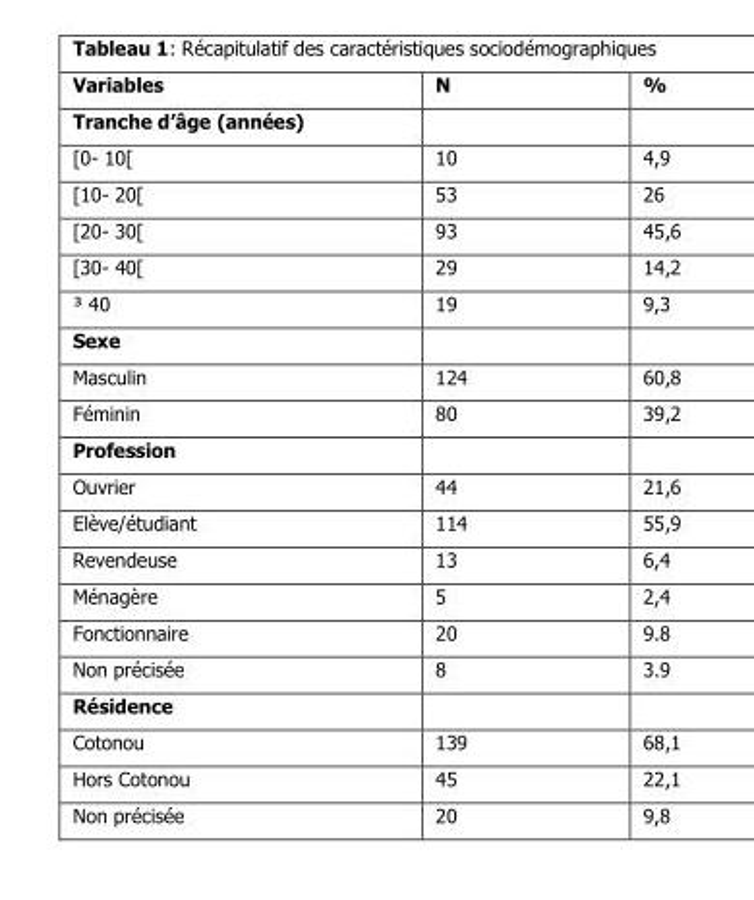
<table><thead><tr><td>Variables</td><td>N</td><td>%</td></tr></thead><tbody><tr><td colspan="3">Tranche d’âge (années)</td></tr><tr><td>[0- 10[</td><td>10</td><td>4,9</td></tr><tr><td>[10- 20[</td><td>53</td><td>26</td></tr><tr><td>[20- 30[</td><td>93</td><td>45,6</td></tr><tr><td>[30- 40[</td><td>29</td><td>14,2</td></tr><tr><td>³ 40</td><td>19</td><td>9,3</td></tr><tr><td colspan="3">Sexe</td></tr><tr><td>Masculin</td><td>124</td><td>60,8</td></tr><tr><td>Féminin</td><td>80</td><td>39,2</td></tr><tr><td colspan="3">Profession</td></tr><tr><td>Ouvrier</td><td>44</td><td>21,6</td></tr><tr><td>Elève/étudiant</td><td>114</td><td>55,9</td></tr><tr><td>Revendeuse</td><td>13</td><td>6,4</td></tr><tr><td>Ménagère</td><td>5</td><td>2,4</td></tr><tr><td>Fonctionnaire</td><td>20</td><td>9.8</td></tr><tr><td>Non précisée</td><td>8</td><td>3.9</td></tr><tr><td colspan="3">Résidence</td></tr><tr><td>Cotonou</td><td>139</td><td>68,1</td></tr><tr><td>Hors Cotonou</td><td>45</td><td>22,1</td></tr><tr><td>Non précisée</td><td>20</td><td>9,8</td></tr></tbody></table>